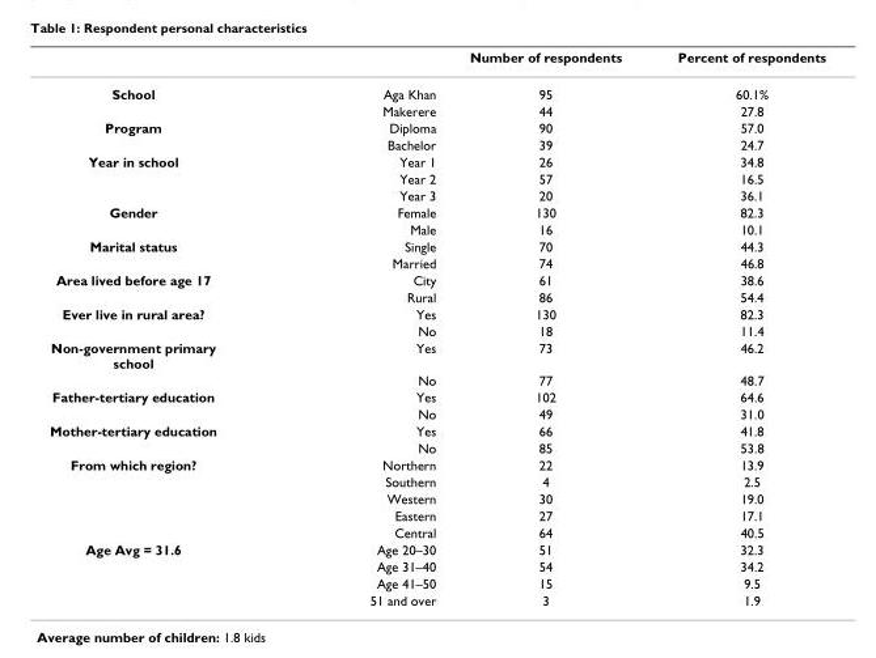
<table><thead><tr><td></td><td></td><td>Number of respondents</td><td>Percent of respondents</td></tr></thead><tbody><tr><td rowspan="2">School</td><td>Aga Khan</td><td>95</td><td>60.1%</td></tr><tr><td>Makerere</td><td>44</td><td>27.8</td></tr><tr><td rowspan="2">Program</td><td>Diploma</td><td>90</td><td>57.0</td></tr><tr><td>Bachelor</td><td>39</td><td>24.7</td></tr><tr><td rowspan="3">Year in school</td><td>Year 1</td><td>26</td><td>34.8</td></tr><tr><td>Year 2</td><td>57</td><td>16.5</td></tr><tr><td>Year 3</td><td>20</td><td>36.1</td></tr><tr><td rowspan="2">Gender</td><td>Female</td><td>130</td><td>82.3</td></tr><tr><td>Male</td><td>16</td><td>10.1</td></tr><tr><td rowspan="2">Marital status</td><td>Single</td><td>70</td><td>44.3</td></tr><tr><td>Married</td><td>74</td><td>46.8</td></tr><tr><td rowspan="2">Area lived before age 17</td><td>City</td><td>61</td><td>38.6</td></tr><tr><td>Rural</td><td>86</td><td>54.4</td></tr><tr><td rowspan="2">Ever live in rural area?</td><td>Yes</td><td>130</td><td>82.3</td></tr><tr><td>No</td><td>18</td><td>11.4</td></tr><tr><td rowspan="2">Non-government primary school</td><td>Yes</td><td>73</td><td>46.2</td></tr><tr><td>No</td><td>77</td><td>48.7</td></tr><tr><td rowspan="2">Father-tertiary education</td><td>Yes</td><td>102</td><td>64.6</td></tr><tr><td>No</td><td>49</td><td>31.0</td></tr><tr><td rowspan="2">Mother-tertiary education</td><td>Yes</td><td>66</td><td>41.8</td></tr><tr><td>No</td><td>85</td><td>53.8</td></tr><tr><td rowspan="5">From which region?</td><td>Northern</td><td>22</td><td>13.9</td></tr><tr><td>Southern</td><td>4</td><td>2.5</td></tr><tr><td>Western</td><td>30</td><td>19.0</td></tr><tr><td>Eastern</td><td>27</td><td>17.1</td></tr><tr><td>Central</td><td>64</td><td>40.5</td></tr><tr><td rowspan="4">Age Avg = 31.6</td><td>Age 20–30</td><td>51</td><td>32.3</td></tr><tr><td>Age 31–40</td><td>54</td><td>34.2</td></tr><tr><td>Age 41–50</td><td>15</td><td>9.5</td></tr><tr><td>51 and over</td><td>3</td><td>1.9</td></tr></tbody></table>